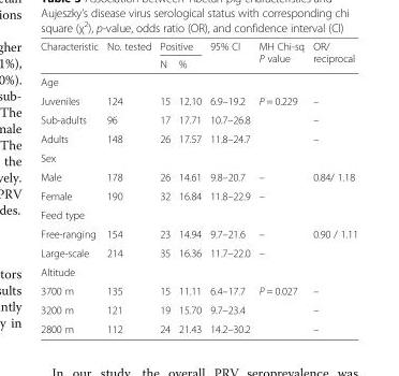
<table><thead><tr><td rowspan="2">Characteristic</td><td rowspan="2">No. tested</td><td colspan="2">Positive</td><td rowspan="2">95% CI</td><td rowspan="2">MH Chi-sq P value</td><td rowspan="2">OR/ reciprocal</td></tr><tr><td>N</td><td>%</td></tr></thead><tbody><tr><td colspan="7">Age</td></tr><tr><td>Juveniles</td><td>124</td><td>15</td><td>12.10</td><td>6.9–19.2</td><td rowspan="3">P = 0.229</td><td>–</td></tr><tr><td>Sub-adults</td><td>96</td><td>17</td><td>17.71</td><td>10.7–26.8</td><td>–</td></tr><tr><td>Adults</td><td>148</td><td>26</td><td>17.57</td><td>11.8–24.7</td><td>–</td></tr><tr><td colspan="7">Sex</td></tr><tr><td>Male</td><td>178</td><td>26</td><td>14.61</td><td>9.8–20.7</td><td>–</td><td rowspan="2">0.84/ 1.18</td></tr><tr><td>Female</td><td>190</td><td>32</td><td>16.84</td><td>11.8–22.9</td><td>–</td></tr><tr><td colspan="7">Feed type</td></tr><tr><td>Free-ranging</td><td>154</td><td>23</td><td>14.94</td><td>9.7–21.6</td><td>–</td><td rowspan="2">0.90 / 1.11</td></tr><tr><td>Large-scale</td><td>214</td><td>35</td><td>16.36</td><td>11.7–22.0</td><td>–</td></tr><tr><td colspan="7">Altitude</td></tr><tr><td>3700 m</td><td>135</td><td>15</td><td>11.11</td><td>6.4–17.7</td><td rowspan="3">P = 0.027</td><td>–</td></tr><tr><td>3200 m</td><td>121</td><td>19</td><td>15.70</td><td>9.7–23.4</td><td>–</td></tr><tr><td>2800 m</td><td>112</td><td>24</td><td>21.43</td><td>14.2–30.2</td><td>–</td></tr></tbody></table>